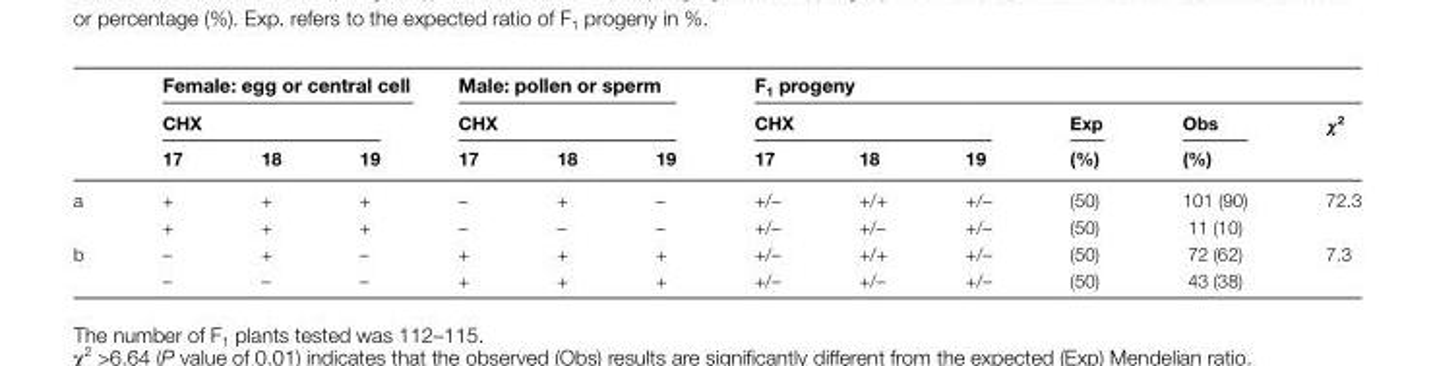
<table><thead><tr><td rowspan="3"></td><td rowspan="2" colspan="3">Female: egg or central cell CHX</td><td rowspan="2" colspan="3">Male: pollen or sperm CHX</td><td rowspan="2" colspan="3">F<sub>1</sub> progeny CHX</td><td rowspan="3">Exp (%)</td><td rowspan="3">Obs (%)</td><td rowspan="3">χ<sup>2</sup></td></tr><tr></tr><tr><td>17</td><td>18</td><td>19</td><td>17</td><td>18</td><td>19</td><td>17</td><td>18</td><td>19</td></tr></thead><tbody><tr><td rowspan="2">a</td><td>+</td><td>+</td><td>+</td><td>–</td><td>+</td><td>–</td><td>+/–</td><td>+/+</td><td>+/–</td><td>(50)</td><td>101 (90)</td><td>72.3</td></tr><tr><td>+</td><td>+</td><td>+</td><td>–</td><td>–</td><td>–</td><td>+/–</td><td>+/–</td><td>+/–</td><td>(50)</td><td>11 (10)</td><td></td></tr><tr><td rowspan="2">b</td><td>–</td><td>+</td><td>–</td><td>+</td><td>+</td><td>+</td><td>+/–</td><td>+/+</td><td>+/–</td><td>(50)</td><td>72 (62)</td><td>7.3</td></tr><tr><td>–</td><td>–</td><td>–</td><td>+</td><td>+</td><td>+</td><td>+/–</td><td>+/–</td><td>+/–</td><td>(50)</td><td>43 (38)</td><td></td></tr></tbody></table>